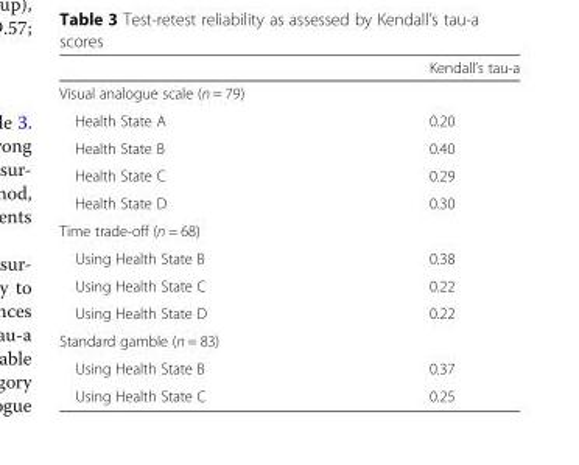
<table><thead><tr><td></td><td>Kendall’s tau-a</td></tr></thead><tbody><tr><td colspan="2">Visual analogue scale (n = 79)</td></tr><tr><td>Health State A</td><td>0.20</td></tr><tr><td>Health State B</td><td>0.40</td></tr><tr><td>Health State C</td><td>0.29</td></tr><tr><td>Health State D</td><td>0.30</td></tr><tr><td colspan="2">Time trade-off (n = 68)</td></tr><tr><td>Using Health State B</td><td>0.38</td></tr><tr><td>Using Health State C</td><td>0.22</td></tr><tr><td>Using Health State D</td><td>0.22</td></tr><tr><td colspan="2">Standard gamble (n = 83)</td></tr><tr><td>Using Health State B</td><td>0.37</td></tr><tr><td>Using Health State C</td><td>0.25</td></tr></tbody></table>